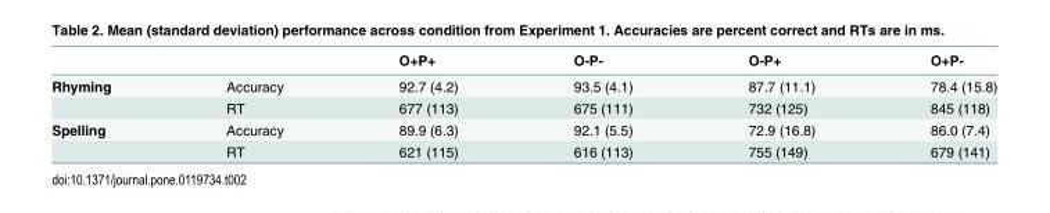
<table><thead><tr><td></td><td></td><td>O+P+</td><td>O-P-</td><td>O-P+</td><td>O+P-</td></tr></thead><tbody><tr><td rowspan="2">Rhyming</td><td>Accuracy</td><td>92.7 (4.2)</td><td>93.5 (4.1)</td><td>87.7 (11.1)</td><td>78.4 (15.8)</td></tr><tr><td>RT</td><td>677 (113)</td><td>675 (111)</td><td>732 (125)</td><td>845 (118)</td></tr><tr><td rowspan="2">Spelling</td><td>Accuracy</td><td>89.9 (6.3)</td><td>92.1 (5.5)</td><td>72.9 (16.8)</td><td>86.0 (7.4)</td></tr><tr><td>RT</td><td>621 (115)</td><td>616 (113)</td><td>755 (149)</td><td>679 (141)</td></tr></tbody></table>